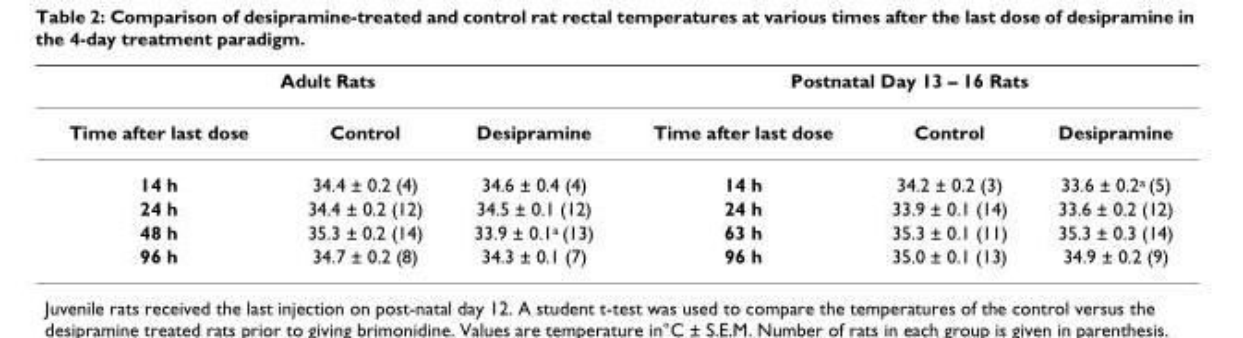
<table><thead><tr><td colspan="3">Adult Rats</td><td colspan="3">Postnatal Day 13 – 16 Rats</td></tr><tr><td>Time after last dose</td><td>Control</td><td>Desipramine</td><td>Time after last dose</td><td>Control</td><td>Desipramine</td></tr></thead><tbody><tr><td>14 h</td><td>34.4 ± 0.2 (4)</td><td>34.6 ± 0.4 (4)</td><td>14 h</td><td>34.2 ± 0.2 (3)</td><td>33.6 ± 0.2<sup>a</sup> (5)</td></tr><tr><td>24 h</td><td>34.4 ± 0.2 (12)</td><td>34.5 ± 0.1 (12)</td><td>24 h</td><td>33.9 ± 0.1 (14)</td><td>33.6 ± 0.2 (12)</td></tr><tr><td>48 h</td><td>35.3 ± 0.2 (14)</td><td>33.9 ± 0.1<sup>a</sup> (13)</td><td>63 h</td><td>35.3 ± 0.1 (11)</td><td>35.3 ± 0.3 (14)</td></tr><tr><td>96 h</td><td>34.7 ± 0.2 (8)</td><td>34.3 ± 0.1 (7)</td><td>96 h</td><td>35.0 ± 0.1 (13)</td><td>34.9 ± 0.2 (9)</td></tr></tbody></table>